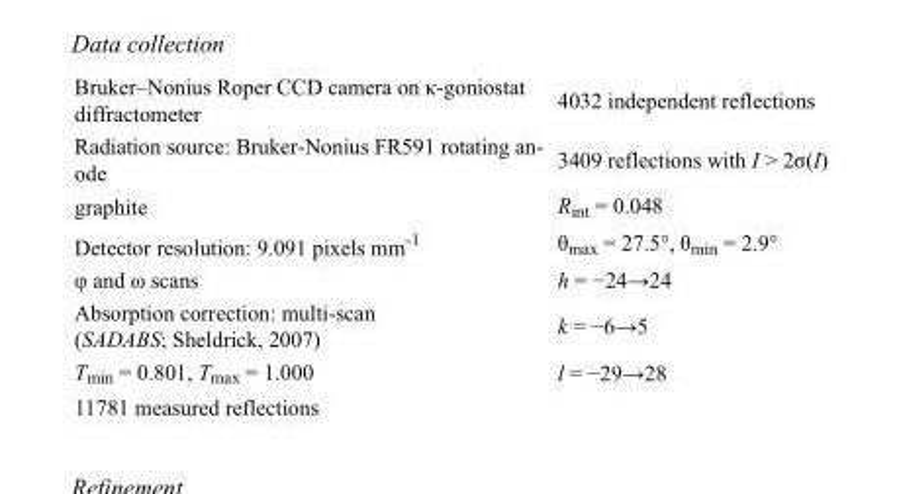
<table><tbody><tr><td>Bruker–Nonius Roper CCD camera on κ-goniostat diffractometer</td><td>4032 independent reflections</td></tr><tr><td>Radiation source: Bruker-Nonius FR591 rotating an- ode</td><td>3409 reflections with I &gt; 2σ(I)</td></tr><tr><td>graphite</td><td>R<sub>int</sub> = 0.048</td></tr><tr><td>Detector resolution: 9.091 pixels mm<sup>-1</sup></td><td>θ<sub>max</sub> = 27.5°, θ<sub>min</sub> = 2.9°</td></tr><tr><td>φ and ω scans</td><td>h = −24→24</td></tr><tr><td>Absorption correction: multi-scan (SADABS; Sheldrick, 2007)</td><td>k = −6→5</td></tr><tr><td>T<sub>min</sub> = 0.801, T<sub>max</sub> = 1.000</td><td>l = −29→28</td></tr><tr><td>11781 measured reflections</td><td></td></tr></tbody></table>